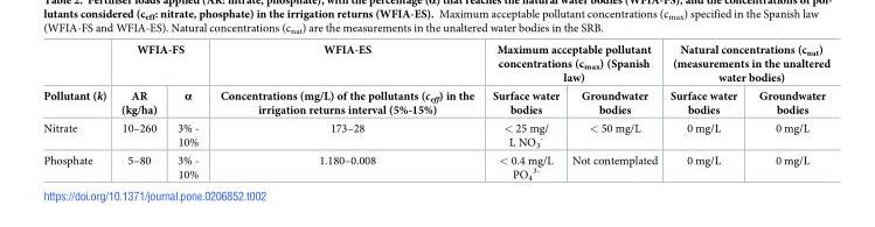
<table><thead><tr><td rowspan="2">Pollutant (k)</td><td colspan="2">WFIA-FS</td><td rowspan="2">WFIA-ES Concentrations (mg/L) of the pollutants (c<sub>eff</sub>) in the irrigation returns interval (5%-15%)</td><td colspan="2">Maximum acceptable pollutant concentrations (c<sub>max</sub>) (Spanish law)</td><td colspan="2">Natural concentrations (c<sub>nat</sub>) (measurements in the unaltered water bodies)</td></tr><tr><td>AR (kg/ha)</td><td>α</td><td>Surface water bodies</td><td>Groundwater bodies</td><td>Surface water bodies</td><td>Groundwater bodies</td></tr></thead><tbody><tr><td>Nitrate</td><td>10–260</td><td>3% - 10%</td><td>173–28</td><td>&lt; 25 mg/ L NO<sub>3</sub> <sup>-</sup></td><td>&lt; 50 mg/L</td><td>0 mg/L</td><td>0 mg/L</td></tr><tr><td>Phosphate</td><td>5–80</td><td>3% - 10%</td><td>1.180–0.008</td><td>&lt; 0.4 mg/L PO<sub>4</sub> <sup>3-</sup></td><td>Not contemplated</td><td>0 mg/L</td><td>0 mg/L</td></tr></tbody></table>